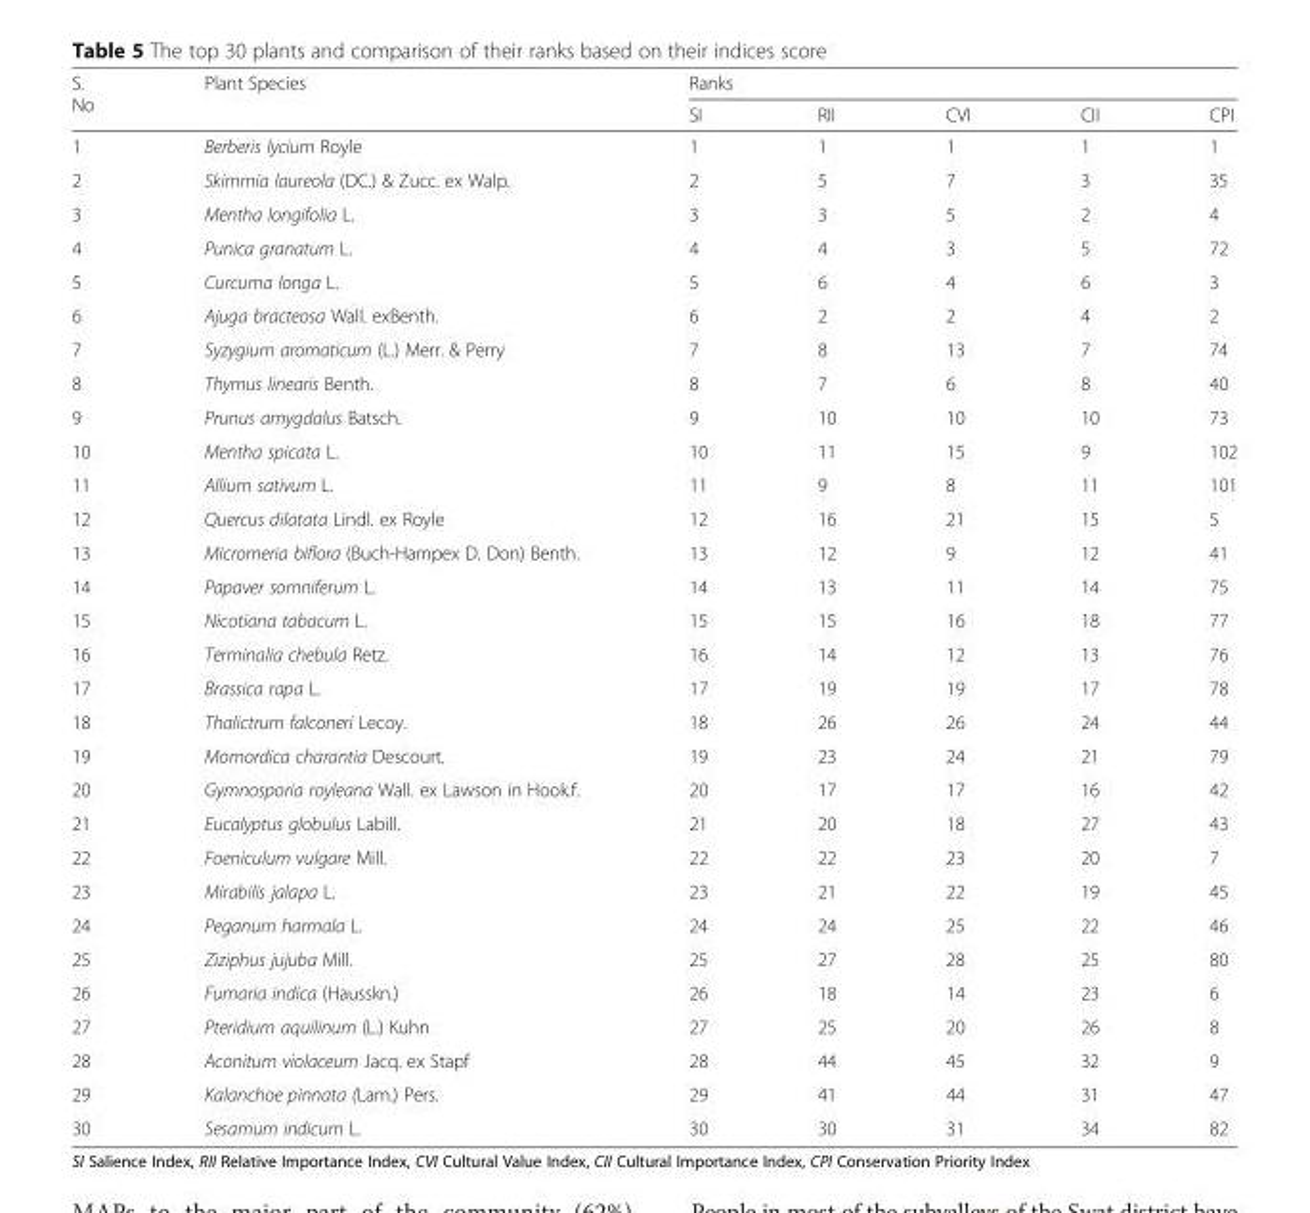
<table><thead><tr><td rowspan="2">S. No</td><td rowspan="2">Plant Species</td><td colspan="5">Ranks</td></tr><tr><td>SI</td><td>RII</td><td>CVI</td><td>CII</td><td>CPI</td></tr></thead><tbody><tr><td>1</td><td>Berberis lycium Royle</td><td>1</td><td>1</td><td>1</td><td>1</td><td>1</td></tr><tr><td>2</td><td>Skimmia laureola (DC.) &amp; Zucc. ex Walp.</td><td>2</td><td>5</td><td>7</td><td>3</td><td>35</td></tr><tr><td>3</td><td>Mentha longifolia L.</td><td>3</td><td>3</td><td>5</td><td>2</td><td>4</td></tr><tr><td>4</td><td>Punica granatum L.</td><td>4</td><td>4</td><td>3</td><td>5</td><td>72</td></tr><tr><td>5</td><td>Curcuma longa L.</td><td>5</td><td>6</td><td>4</td><td>6</td><td>3</td></tr><tr><td>6</td><td>Ajuga bracteosa Wall. exBenth.</td><td>6</td><td>2</td><td>2</td><td>4</td><td>2</td></tr><tr><td>7</td><td>Syzygium aromaticum (L.) Merr. &amp; Perry</td><td>7</td><td>8</td><td>13</td><td>7</td><td>74</td></tr><tr><td>8</td><td>Thymus linearis Benth.</td><td>8</td><td>7</td><td>6</td><td>8</td><td>40</td></tr><tr><td>9</td><td>Prunus amygdalus Batsch.</td><td>9</td><td>10</td><td>10</td><td>10</td><td>73</td></tr><tr><td>10</td><td>Mentha spicata L.</td><td>10</td><td>11</td><td>15</td><td>9</td><td>102</td></tr><tr><td>11</td><td>Allium sativum L.</td><td>11</td><td>9</td><td>8</td><td>11</td><td>101</td></tr><tr><td>12</td><td>Quercus dilatata Lindl. ex Royle</td><td>12</td><td>16</td><td>21</td><td>15</td><td>5</td></tr><tr><td>13</td><td>Micromeria biflora (Buch-Hampex D. Don) Benth.</td><td>13</td><td>12</td><td>9</td><td>12</td><td>41</td></tr><tr><td>14</td><td>Papaver somniferum L.</td><td>14</td><td>13</td><td>11</td><td>14</td><td>75</td></tr><tr><td>15</td><td>Nicotiana tabacum L.</td><td>15</td><td>15</td><td>16</td><td>18</td><td>77</td></tr><tr><td>16</td><td>Terminalia chebula Retz.</td><td>16</td><td>14</td><td>12</td><td>13</td><td>76</td></tr><tr><td>17</td><td>Brassica rapa L.</td><td>17</td><td>19</td><td>19</td><td>17</td><td>78</td></tr><tr><td>18</td><td>Thalictrum falconeri Lecoy.</td><td>18</td><td>26</td><td>26</td><td>24</td><td>44</td></tr><tr><td>19</td><td>Momordica charantia Descourt.</td><td>19</td><td>23</td><td>24</td><td>21</td><td>79</td></tr><tr><td>20</td><td>Gymnosporia royleana Wall. ex Lawson in Hook.f.</td><td>20</td><td>17</td><td>17</td><td>16</td><td>42</td></tr><tr><td>21</td><td>Eucalyptus globulus Labill.</td><td>21</td><td>20</td><td>18</td><td>27</td><td>43</td></tr><tr><td>22</td><td>Foeniculum vulgare Mill.</td><td>22</td><td>22</td><td>23</td><td>20</td><td>7</td></tr><tr><td>23</td><td>Mirabilis jalapa L.</td><td>23</td><td>21</td><td>22</td><td>19</td><td>45</td></tr><tr><td>24</td><td>Peganum harmala L.</td><td>24</td><td>24</td><td>25</td><td>22</td><td>46</td></tr><tr><td>25</td><td>Ziziphus jujuba Mill.</td><td>25</td><td>27</td><td>28</td><td>25</td><td>80</td></tr><tr><td>26</td><td>Fumaria indica (Hausskn.)</td><td>26</td><td>18</td><td>14</td><td>23</td><td>6</td></tr><tr><td>27</td><td>Pteridium aquilinum (L.) Kuhn</td><td>27</td><td>25</td><td>20</td><td>26</td><td>8</td></tr><tr><td>28</td><td>Aconitum violaceum Jacq. ex Stapf</td><td>28</td><td>44</td><td>45</td><td>32</td><td>9</td></tr><tr><td>29</td><td>Kalanchoe pinnata (Lam.) Pers.</td><td>29</td><td>41</td><td>44</td><td>31</td><td>47</td></tr><tr><td>30</td><td>Sesamum indicum L.</td><td>30</td><td>30</td><td>31</td><td>34</td><td>82</td></tr></tbody></table>